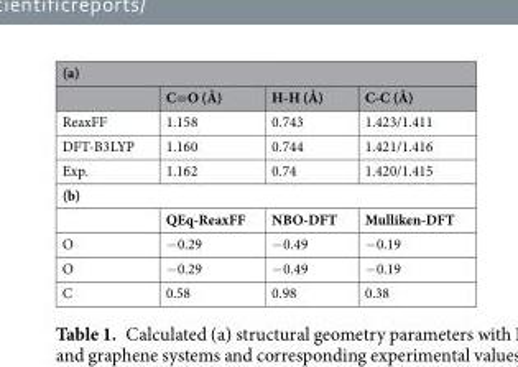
<table><thead><tr><td colspan="4">(a)</td></tr><tr><td></td><td>C=O (Å)</td><td>H-H (Å)</td><td>C-C (Å)</td></tr></thead><tbody><tr><td>ReaxFF</td><td>1.158</td><td>0.743</td><td>1.423/1.411</td></tr><tr><td>DFT-B3LYP</td><td>1.160</td><td>0.744</td><td>1.421/1.416</td></tr><tr><td>Exp.</td><td>1.162</td><td>0.74</td><td>1.420/1.415</td></tr><tr><td colspan="4">(b)</td></tr><tr><td></td><td>QEq-ReaxFF</td><td>NBO-DFT</td><td>Mulliken-DFT</td></tr><tr><td>O</td><td>−0.29</td><td>−0.49</td><td>−0.19</td></tr><tr><td>O</td><td>−0.29</td><td>−0.49</td><td>−0.19</td></tr><tr><td>C</td><td>0.58</td><td>0.98</td><td>0.38</td></tr></tbody></table>